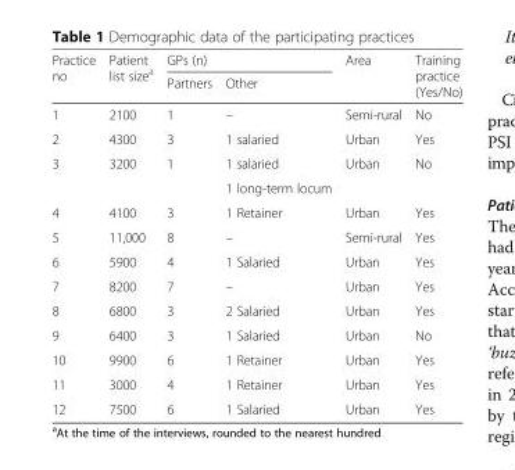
<table><thead><tr><td rowspan="2">Practice no</td><td rowspan="2">Patient list size<sup>a</sup></td><td colspan="2">GPs (n)</td><td rowspan="2">Area</td><td rowspan="2">Training practice (Yes/No)</td></tr><tr><td>Partners</td><td>Other</td></tr></thead><tbody><tr><td>1</td><td>2100</td><td>1</td><td>–</td><td>Semi-rural</td><td>No</td></tr><tr><td>2</td><td>4300</td><td>3</td><td>1 salaried</td><td>Urban</td><td>Yes</td></tr><tr><td rowspan="2">3</td><td rowspan="2">3200</td><td rowspan="2">1</td><td>1 salaried</td><td rowspan="2">Urban</td><td rowspan="2">No</td></tr><tr><td>1 long-term locum</td></tr><tr><td>4</td><td>4100</td><td>3</td><td>1 Retainer</td><td>Urban</td><td>Yes</td></tr><tr><td>5</td><td>11,000</td><td>8</td><td>–</td><td>Semi-rural</td><td>Yes</td></tr><tr><td>6</td><td>5900</td><td>4</td><td>1 Salaried</td><td>Urban</td><td>Yes</td></tr><tr><td>7</td><td>8200</td><td>7</td><td>–</td><td>Urban</td><td>Yes</td></tr><tr><td>8</td><td>6800</td><td>3</td><td>2 Salaried</td><td>Urban</td><td>Yes</td></tr><tr><td>9</td><td>6400</td><td>3</td><td>1 Salaried</td><td>Urban</td><td>No</td></tr><tr><td>10</td><td>9900</td><td>6</td><td>1 Retainer</td><td>Urban</td><td>Yes</td></tr><tr><td>11</td><td>3000</td><td>4</td><td>1 Retainer</td><td>Urban</td><td>Yes</td></tr><tr><td>12</td><td>7500</td><td>6</td><td>1 Salaried</td><td>Urban</td><td>Yes</td></tr></tbody></table>